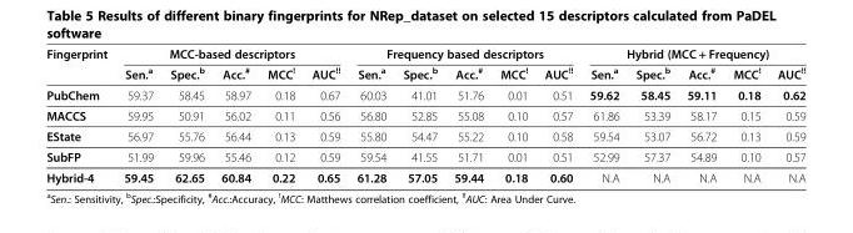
<table><thead><tr><td rowspan="2">Fingerprint</td><td colspan="5">MCC-based descriptors</td><td colspan="5">Frequency based descriptors</td><td colspan="5">Hybrid (MCC + Frequency)</td></tr><tr><td>Sen.<sup>a</sup></td><td>Spec.<sup>b</sup></td><td>Acc.<sup>#</sup></td><td>MCC<sup>!</sup></td><td>AUC<sup>!!</sup></td><td>Sen.<sup>a</sup></td><td>Spec.<sup>b</sup></td><td>Acc.<sup>#</sup></td><td>MCC<sup>!</sup></td><td>AUC<sup>!!</sup></td><td>Sen.<sup>a</sup></td><td>Spec.<sup>b</sup></td><td>Acc.<sup>#</sup></td><td>MCC<sup>!</sup></td><td>AUC<sup>!!</sup></td></tr></thead><tbody><tr><td>PubChem</td><td>59.37</td><td>58.45</td><td>58.97</td><td>0.18</td><td>0.67</td><td>60.03</td><td>41.01</td><td>51.76</td><td>0.01</td><td>0.51</td><td>59.62</td><td>58.45</td><td>59.11</td><td>0.18</td><td>0.62</td></tr><tr><td>MACCS</td><td>59.95</td><td>50.91</td><td>56.02</td><td>0.11</td><td>0.56</td><td>56.80</td><td>52.85</td><td>55.08</td><td>0.10</td><td>0.57</td><td>61.86</td><td>53.39</td><td>58.17</td><td>0.15</td><td>0.59</td></tr><tr><td>EState</td><td>56.97</td><td>55.76</td><td>56.44</td><td>0.13</td><td>0.59</td><td>55.80</td><td>54.47</td><td>55.22</td><td>0.10</td><td>0.58</td><td>59.54</td><td>53.07</td><td>56.72</td><td>0.13</td><td>0.59</td></tr><tr><td>SubFP</td><td>51.99</td><td>59.96</td><td>55.46</td><td>0.12</td><td>0.59</td><td>59.54</td><td>41.55</td><td>51.71</td><td>0.01</td><td>0.51</td><td>52.99</td><td>57.37</td><td>54.89</td><td>0.10</td><td>0.57</td></tr><tr><td>Hybrid-4</td><td>59.45</td><td>62.65</td><td>60.84</td><td>0.22</td><td>0.65</td><td>61.28</td><td>57.05</td><td>59.44</td><td>0.18</td><td>0.60</td><td>N.A</td><td>N.A</td><td>N.A</td><td>N.A</td><td>N.A</td></tr></tbody></table>